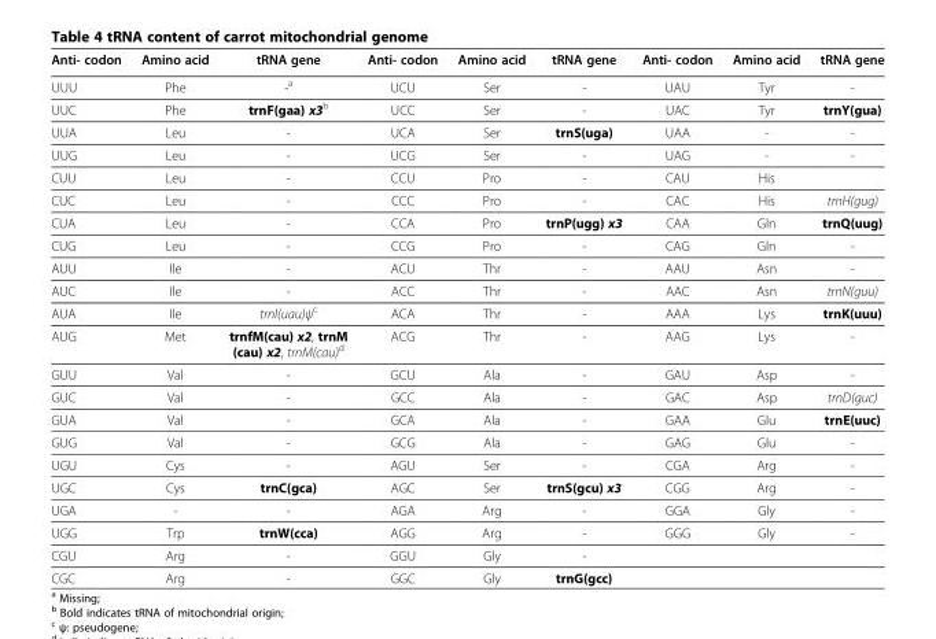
<table><thead><tr><td>Anti- codon</td><td>Amino acid</td><td>tRNA gene</td><td>Anti- codon</td><td>Amino acid</td><td>tRNA gene</td><td>Anti- codon</td><td>Amino acid</td><td>tRNA gene</td></tr></thead><tbody><tr><td>UUU</td><td>Phe</td><td>-<sup>a</sup></td><td>UCU</td><td>Ser</td><td>-</td><td>UAU</td><td>Tyr</td><td>-</td></tr><tr><td>UUC</td><td>Phe</td><td>trnF(gaa) x3<sup>b</sup></td><td>UCC</td><td>Ser</td><td>-</td><td>UAC</td><td>Tyr</td><td>trnY(gua)</td></tr><tr><td>UUA</td><td>Leu</td><td>-</td><td>UCA</td><td>Ser</td><td>trnS(uga)</td><td>UAA</td><td>-</td><td>-</td></tr><tr><td>UUG</td><td>Leu</td><td>-</td><td>UCG</td><td>Ser</td><td>-</td><td>UAG</td><td>-</td><td>-</td></tr><tr><td>CUU</td><td>Leu</td><td>-</td><td>CCU</td><td>Pro</td><td>-</td><td>CAU</td><td>His</td><td></td></tr><tr><td>CUC</td><td>Leu</td><td>-</td><td>CCC</td><td>Pro</td><td>-</td><td>CAC</td><td>His</td><td>trnH(gug)</td></tr><tr><td>CUA</td><td>Leu</td><td>-</td><td>CCA</td><td>Pro</td><td>trnP(ugg) x3</td><td>CAA</td><td>Gln</td><td>trnQ(uug)</td></tr><tr><td>CUG</td><td>Leu</td><td>-</td><td>CCG</td><td>Pro</td><td>-</td><td>CAG</td><td>Gln</td><td>-</td></tr><tr><td>AUU</td><td>Ile</td><td>-</td><td>ACU</td><td>Thr</td><td>-</td><td>AAU</td><td>Asn</td><td>-</td></tr><tr><td>AUC</td><td>Ile</td><td>-</td><td>ACC</td><td>Thr</td><td>-</td><td>AAC</td><td>Asn</td><td>trnN(guu)</td></tr><tr><td>AUA</td><td>Ile</td><td>trnI(uau)ψ<sup>c</sup></td><td>ACA</td><td>Thr</td><td>-</td><td>AAA</td><td>Lys</td><td>trnK(uuu)</td></tr><tr><td>AUG</td><td>Met</td><td>trnfM(cau) x2, trnM (cau) x2, trnM(cau)<sup>d</sup></td><td>ACG</td><td>Thr</td><td>-</td><td>AAG</td><td>Lys</td><td>-</td></tr><tr><td>GUU</td><td>Val</td><td>-</td><td>GCU</td><td>Ala</td><td>-</td><td>GAU</td><td>Asp</td><td>-</td></tr><tr><td>GUC</td><td>Val</td><td>-</td><td>GCC</td><td>Ala</td><td>-</td><td>GAC</td><td>Asp</td><td>trnD(guc)</td></tr><tr><td>GUA</td><td>Val</td><td>-</td><td>GCA</td><td>Ala</td><td>-</td><td>GAA</td><td>Glu</td><td>trnE(uuc)</td></tr><tr><td>GUG</td><td>Val</td><td>-</td><td>GCG</td><td>Ala</td><td>-</td><td>GAG</td><td>Glu</td><td>-</td></tr><tr><td>UGU</td><td>Cys</td><td>-</td><td>AGU</td><td>Ser</td><td>-</td><td>CGA</td><td>Arg</td><td>-</td></tr><tr><td>UGC</td><td>Cys</td><td>trnC(gca)</td><td>AGC</td><td>Ser</td><td>trnS(gcu) x3</td><td>CGG</td><td>Arg</td><td>-</td></tr><tr><td>UGA</td><td>-</td><td>-</td><td>AGA</td><td>Arg</td><td>-</td><td>GGA</td><td>Gly</td><td>-</td></tr><tr><td>UGG</td><td>Trp</td><td>trnW(cca)</td><td>AGG</td><td>Arg</td><td>-</td><td>GGG</td><td>Gly</td><td>-</td></tr><tr><td>CGU</td><td>Arg</td><td>-</td><td>GGU</td><td>Gly</td><td>-</td><td></td><td></td><td></td></tr><tr><td>CGC</td><td>Arg</td><td>-</td><td>GGC</td><td>Gly</td><td>trnG(gcc)</td><td></td><td></td><td></td></tr></tbody></table>